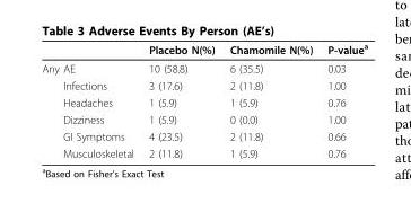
<table><thead><tr><td></td><td>Placebo N(%)</td><td>Chamomile N(%)</td><td>P-value<sup>a</sup></td></tr></thead><tbody><tr><td>Any AE</td><td>10 (58.8)</td><td>6 (35.5)</td><td>0.03</td></tr><tr><td>Infections</td><td>3 (17.6)</td><td>2 (11.8)</td><td>1.00</td></tr><tr><td>Headaches</td><td>1 (5.9)</td><td>1 (5.9)</td><td>0.76</td></tr><tr><td>Dizziness</td><td>1 (5.9)</td><td>0 (0.0)</td><td>1.00</td></tr><tr><td>GI Symptoms</td><td>4 (23.5)</td><td>2 (11.8)</td><td>0.66</td></tr><tr><td>Musculoskeletal</td><td>2 (11.8)</td><td>1 (5.9)</td><td>0.76</td></tr></tbody></table>